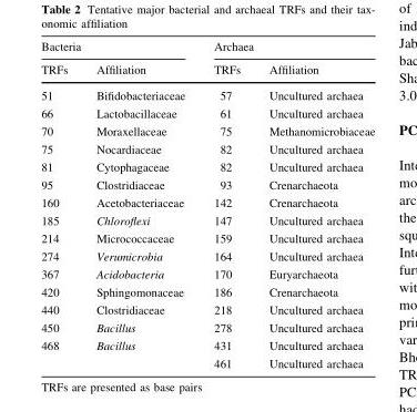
<table><thead><tr><td colspan="2">Bacteria</td><td colspan="2">Archaea</td></tr><tr><td>TRFs</td><td>Affiliation</td><td>TRFs</td><td>Affiliation</td></tr></thead><tbody><tr><td>51</td><td>Bifidobacteriaceae</td><td>57</td><td>Uncultured archaea</td></tr><tr><td>66</td><td>Lactobacillaceae</td><td>61</td><td>Uncultured archaea</td></tr><tr><td>70</td><td>Moraxellaceae</td><td>75</td><td>Methanomicrobiaceae</td></tr><tr><td>75</td><td>Nocardiaceae</td><td>82</td><td>Uncultured archaea</td></tr><tr><td>81</td><td>Cytophagaceae</td><td>82</td><td>Uncultured archaea</td></tr><tr><td>95</td><td>Clostridiaceae</td><td>93</td><td>Crenarchaeota</td></tr><tr><td>160</td><td>Acetobacteriaceae</td><td>142</td><td>Crenarchaeota</td></tr><tr><td>185</td><td>Chloroflexi</td><td>147</td><td>Uncultured archaea</td></tr><tr><td>214</td><td>Micrococcaceae</td><td>159</td><td>Uncultured archaea</td></tr><tr><td>274</td><td>Verumicrobia</td><td>164</td><td>Uncultured archaea</td></tr><tr><td>367</td><td>Acidobacteria</td><td>170</td><td>Euryarchaeota</td></tr><tr><td>420</td><td>Sphingomonaceae</td><td>186</td><td>Crenarchaeota</td></tr><tr><td>440</td><td>Clostridiaceae</td><td>218</td><td>Uncultured archaea</td></tr><tr><td>450</td><td>Bacillus</td><td>278</td><td>Uncultured archaea</td></tr><tr><td rowspan="2">468</td><td>Bacillus</td><td>431</td><td>Uncultured archaea</td></tr><tr><td></td><td>461</td><td>Uncultured archaea</td></tr></tbody></table>